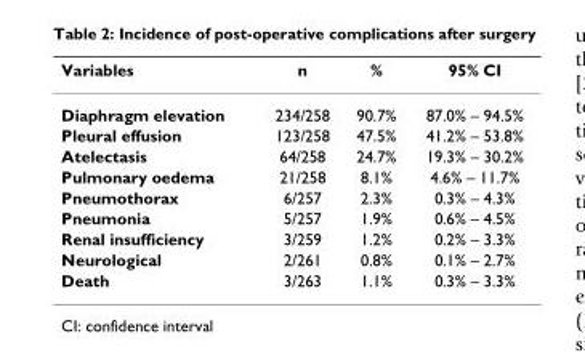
<table><thead><tr><td>Variables</td><td>n</td><td>%</td><td>95% CI</td></tr></thead><tbody><tr><td>Diaphragm elevation</td><td>234/258</td><td>90.7%</td><td>87.0% – 94.5%</td></tr><tr><td>Pleural effusion</td><td>123/258</td><td>47.5%</td><td>41.2% – 53.8%</td></tr><tr><td>Atelectasis</td><td>64/258</td><td>24.7%</td><td>19.3% – 30.2%</td></tr><tr><td>Pulmonary oedema</td><td>21/258</td><td>8.1%</td><td>4.6% – 11.7%</td></tr><tr><td>Pneumothorax</td><td>6/257</td><td>2.3%</td><td>0.3% – 4.3%</td></tr><tr><td>Pneumonia</td><td>5/257</td><td>1.9%</td><td>0.6% – 4.5%</td></tr><tr><td>Renal insufficiency</td><td>3/259</td><td>1.2%</td><td>0.2% – 3.3%</td></tr><tr><td>Neurological</td><td>2/261</td><td>0.8%</td><td>0.1% – 2.7%</td></tr><tr><td>Death</td><td>3/263</td><td>1.1%</td><td>0.3% – 3.3%</td></tr></tbody></table>